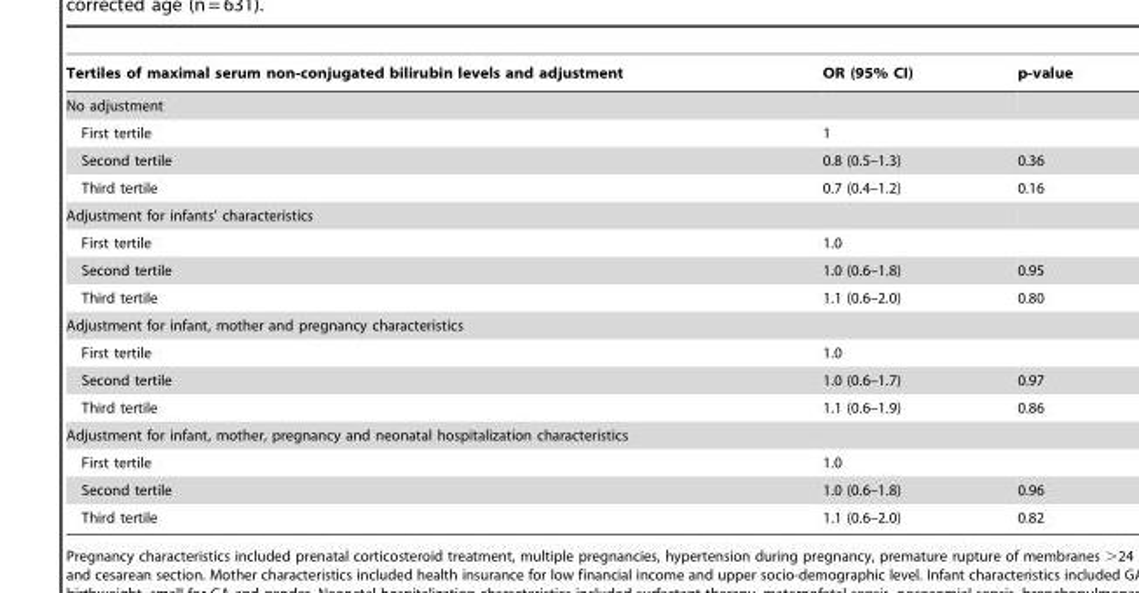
<table><thead><tr><td>Tertiles of maximal serum non-conjugated bilirubin levels and adjustment</td><td>OR (95% CI)</td><td>p-value</td></tr></thead><tbody><tr><td colspan="3">No adjustment</td></tr><tr><td>First tertile</td><td>1</td><td></td></tr><tr><td>Second tertile</td><td>0.8 (0.5–1.3)</td><td>0.36</td></tr><tr><td>Third tertile</td><td>0.7 (0.4–1.2)</td><td>0.16</td></tr><tr><td colspan="3">Adjustment for infants’ characteristics</td></tr><tr><td>First tertile</td><td>1.0</td><td></td></tr><tr><td>Second tertile</td><td>1.0 (0.6–1.8)</td><td>0.95</td></tr><tr><td>Third tertile</td><td>1.1 (0.6–2.0)</td><td>0.80</td></tr><tr><td colspan="3">Adjustment for infant, mother and pregnancy characteristics</td></tr><tr><td>First tertile</td><td>1.0</td><td></td></tr><tr><td>Second tertile</td><td>1.0 (0.6–1.7)</td><td>0.97</td></tr><tr><td>Third tertile</td><td>1.1 (0.6–1.9)</td><td>0.86</td></tr><tr><td colspan="3">Adjustment for infant, mother, pregnancy and neonatal hospitalization characteristics</td></tr><tr><td>First tertile</td><td>1.0</td><td></td></tr><tr><td>Second tertile</td><td>1.0 (0.6–1.8)</td><td>0.96</td></tr><tr><td>Third tertile</td><td>1.1 (0.6–2.0)</td><td>0.82</td></tr></tbody></table>